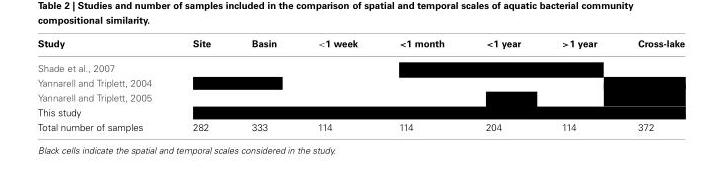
<table><thead><tr><td>Study</td><td>Site</td><td>Basin</td><td>&lt;1 week</td><td>&lt;1 month</td><td>&lt;1 year</td><td>&gt;1 year</td><td>Cross-lake</td></tr></thead><tbody><tr><td colspan="8">Shade et al., 2007</td></tr><tr><td colspan="8">Yannarell and Triplett, 2004</td></tr><tr><td colspan="8">Yannarell and Triplett, 2005</td></tr><tr><td colspan="8">This study</td></tr><tr><td>Total number of samples</td><td>282</td><td>333</td><td>114</td><td>114</td><td>204</td><td>114</td><td>372</td></tr></tbody></table>